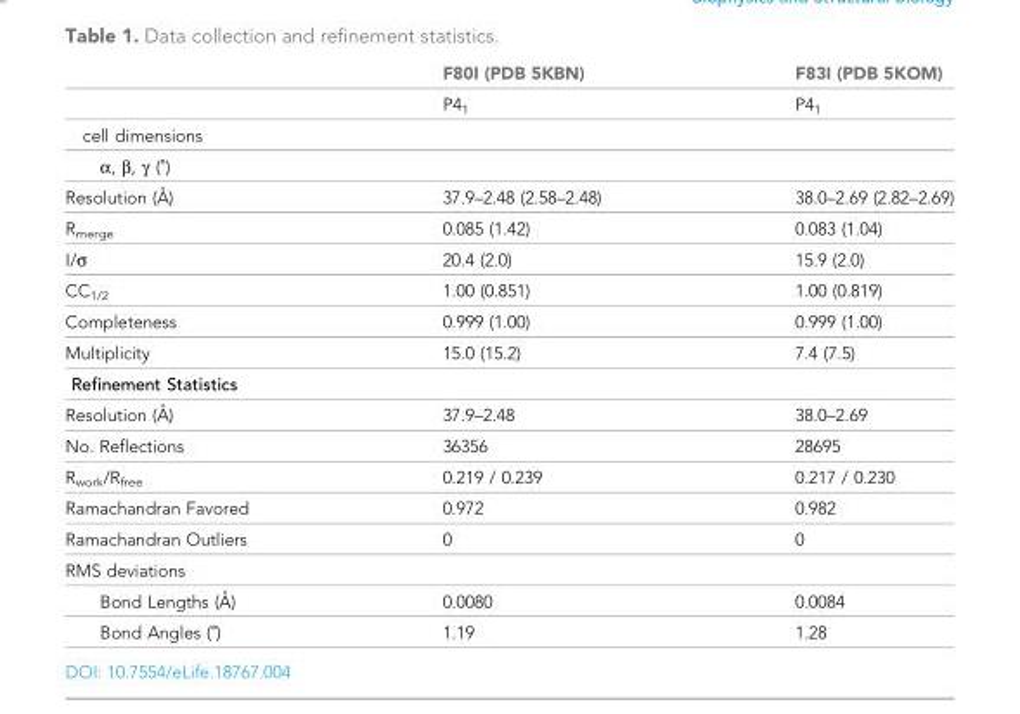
<table><thead><tr><td></td><td>F80I (PDB 5KBN)</td><td>F83I (PDB 5KOM)</td></tr></thead><tbody><tr><td></td><td>P4<sub>1</sub></td><td>P4<sub>1</sub></td></tr><tr><td colspan="3">cell dimensions</td></tr><tr><td colspan="3">α, β, γ (˚)</td></tr><tr><td>Resolution (A˚ )</td><td>37.9–2.48 (2.58–2.48)</td><td>38.0–2.69 (2.82–2.69)</td></tr><tr><td>R<sub>merge</sub></td><td>0.085 (1.42)</td><td>0.083 (1.04)</td></tr><tr><td>I/σ</td><td>20.4 (2.0)</td><td>15.9 (2.0)</td></tr><tr><td>CC<sub>1/2</sub></td><td>1.00 (0.851)</td><td>1.00 (0.819)</td></tr><tr><td>Completeness</td><td>0.999 (1.00)</td><td>0.999 (1.00)</td></tr><tr><td>Multiplicity</td><td>15.0 (15.2)</td><td>7.4 (7.5)</td></tr><tr><td colspan="3">Refinement Statistics</td></tr><tr><td>Resolution (A˚ )</td><td>37.9–2.48</td><td>38.0–2.69</td></tr><tr><td>No. Reflections</td><td>36356</td><td>28695</td></tr><tr><td>R<sub>work</sub>/R<sub>free</sub></td><td>0.219 / 0.239</td><td>0.217 / 0.230</td></tr><tr><td>Ramachandran Favored</td><td>0.972</td><td>0.982</td></tr><tr><td>Ramachandran Outliers</td><td>0</td><td>0</td></tr><tr><td colspan="3">RMS deviations</td></tr><tr><td>Bond Lengths (A˚ )</td><td>0.0080</td><td>0.0084</td></tr><tr><td>Bond Angles (˚)</td><td>1.19</td><td>1.28</td></tr></tbody></table>